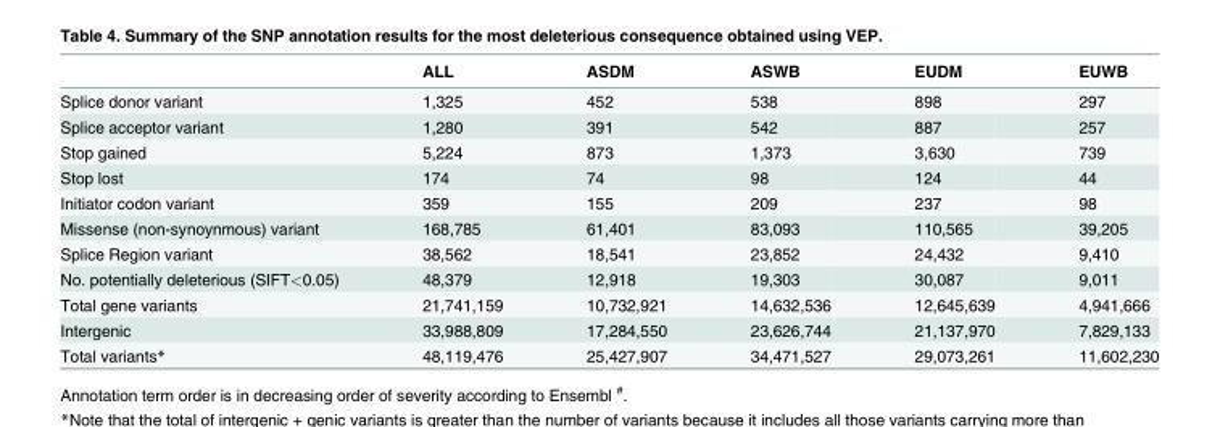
<table><thead><tr><td></td><td>ALL</td><td>ASDM</td><td>ASWB</td><td>EUDM</td><td>EUWB</td></tr></thead><tbody><tr><td>Splice donor variant</td><td>1,325</td><td>452</td><td>538</td><td>898</td><td>297</td></tr><tr><td>Splice acceptor variant</td><td>1,280</td><td>391</td><td>542</td><td>887</td><td>257</td></tr><tr><td>Stop gained</td><td>5,224</td><td>873</td><td>1,373</td><td>3,630</td><td>739</td></tr><tr><td>Stop lost</td><td>174</td><td>74</td><td>98</td><td>124</td><td>44</td></tr><tr><td>Initiator codon variant</td><td>359</td><td>155</td><td>209</td><td>237</td><td>98</td></tr><tr><td>Missense (non-synoynmous) variant</td><td>168,785</td><td>61,401</td><td>83,093</td><td>110,565</td><td>39,205</td></tr><tr><td>Splice Region variant</td><td>38,562</td><td>18,541</td><td>23,852</td><td>24,432</td><td>9,410</td></tr><tr><td>No. potentially deleterious (SIFT&lt;0.05)</td><td>48,379</td><td>12,918</td><td>19,303</td><td>30,087</td><td>9,011</td></tr><tr><td>Total gene variants</td><td>21,741,159</td><td>10,732,921</td><td>14,632,536</td><td>12,645,639</td><td>4,941,666</td></tr><tr><td>Intergenic</td><td>33,988,809</td><td>17,284,550</td><td>23,626,744</td><td>21,137,970</td><td>7,829,133</td></tr><tr><td>Total variants*</td><td>48,119,476</td><td>25,427,907</td><td>34,471,527</td><td>29,073,261</td><td>11,602,230</td></tr></tbody></table>